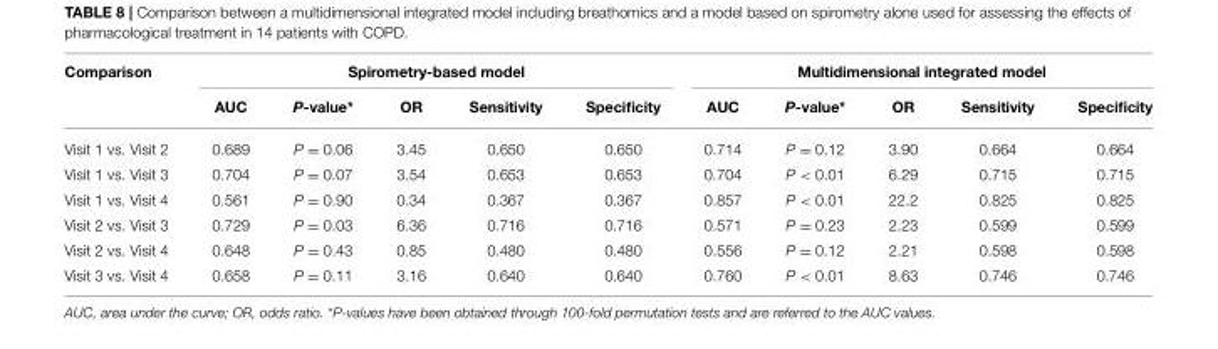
<table><thead><tr><td rowspan="2">Comparison</td><td colspan="5">Spirometry-based model</td><td colspan="5">Multidimensional integrated model</td></tr><tr><td>AUC</td><td>P-value*</td><td>OR</td><td>Sensitivity</td><td>Specificity</td><td>AUC</td><td>P-value*</td><td>OR</td><td>Sensitivity</td><td>Specificity</td></tr></thead><tbody><tr><td>Visit 1 vs. Visit 2</td><td>0.689</td><td>P = 0.06</td><td>3.45</td><td>0.650</td><td>0.650</td><td>0.714</td><td>P = 0.12</td><td>3.90</td><td>0.664</td><td>0.664</td></tr><tr><td>Visit 1 vs. Visit 3</td><td>0.704</td><td>P = 0.07</td><td>3.54</td><td>0.653</td><td>0.653</td><td>0.704</td><td>P &lt; 0.01</td><td>6.29</td><td>0.715</td><td>0.715</td></tr><tr><td>Visit 1 vs. Visit 4</td><td>0.561</td><td>P = 0.90</td><td>0.34</td><td>0.367</td><td>0.367</td><td>0.857</td><td>P &lt; 0.01</td><td>22.2</td><td>0.825</td><td>0.825</td></tr><tr><td>Visit 2 vs. Visit 3</td><td>0.729</td><td>P = 0.03</td><td>6.36</td><td>0.716</td><td>0.716</td><td>0.571</td><td>P = 0.23</td><td>2.23</td><td>0.599</td><td>0.599</td></tr><tr><td>Visit 2 vs. Visit 4</td><td>0.648</td><td>P = 0.43</td><td>0.85</td><td>0.480</td><td>0.480</td><td>0.556</td><td>P = 0.12</td><td>2.21</td><td>0.598</td><td>0.598</td></tr><tr><td>Visit 3 vs. Visit 4</td><td>0.658</td><td>P = 0.11</td><td>3.16</td><td>0.640</td><td>0.640</td><td>0.760</td><td>P &lt; 0.01</td><td>8.63</td><td>0.746</td><td>0.746</td></tr></tbody></table>